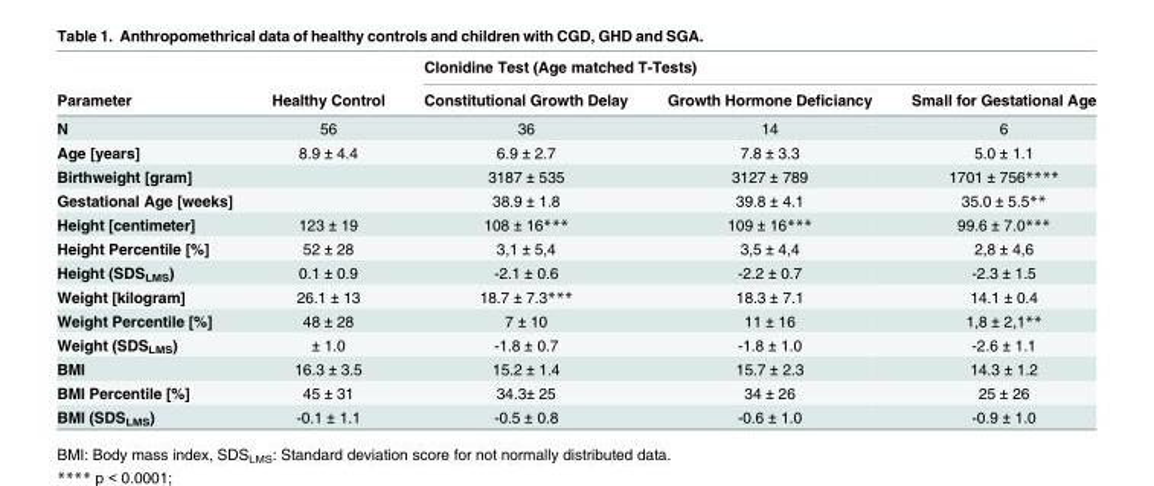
<table><thead><tr><td rowspan="2">Parameter</td><td rowspan="2">Healthy Control</td><td colspan="3">Clonidine Test (Age matched T-Tests)</td></tr><tr><td>Constitutional Growth Delay</td><td>Growth Hormone Deficiancy</td><td>Small for Gestational Age</td></tr></thead><tbody><tr><td>N</td><td>56</td><td>36</td><td>14</td><td>6</td></tr><tr><td>Age [years]</td><td>8.9 ± 4.4</td><td>6.9 ± 2.7</td><td>7.8 ± 3.3</td><td>5.0 ± 1.1</td></tr><tr><td>Birthweight [gram]</td><td></td><td>3187 ± 535</td><td>3127 ± 789</td><td>1701 ± 756****</td></tr><tr><td>Gestational Age [weeks]</td><td></td><td>38.9 ± 1.8</td><td>39.8 ± 4.1</td><td>35.0 ± 5.5**</td></tr><tr><td>Height [centimeter]</td><td>123 ± 19</td><td>108 ± 16***</td><td>109 ± 16***</td><td>99.6 ± 7.0***</td></tr><tr><td>Height Percentile [%]</td><td>52 ± 28</td><td>3,1 ± 5,4</td><td>3,5 ± 4,4</td><td>2,8 ± 4,6</td></tr><tr><td>Height (SDS<sub>LMS</sub>)</td><td>0.1 ± 0.9</td><td>-2.1 ± 0.6</td><td>-2.2 ± 0.7</td><td>-2.3 ± 1.5</td></tr><tr><td>Weight [kilogram]</td><td>26.1 ± 13</td><td>18.7 ± 7.3***</td><td>18.3 ± 7.1</td><td>14.1 ± 0.4</td></tr><tr><td>Weight Percentile [%]</td><td>48 ± 28</td><td>7 ± 10</td><td>11 ± 16</td><td>1,8 ± 2,1**</td></tr><tr><td>Weight (SDS<sub>LMS</sub>)</td><td>± 1.0</td><td>-1.8 ± 0.7</td><td>-1.8 ± 1.0</td><td>-2.6 ± 1.1</td></tr><tr><td>BMI</td><td>16.3 ± 3.5</td><td>15.2 ± 1.4</td><td>15.7 ± 2.3</td><td>14.3 ± 1.2</td></tr><tr><td>BMI Percentile [%]</td><td>45 ± 31</td><td>34.3± 25</td><td>34 ± 26</td><td>25 ± 26</td></tr><tr><td>BMI (SDS<sub>LMS</sub>)</td><td>-0.1 ± 1.1</td><td>-0.5 ± 0.8</td><td>-0.6 ± 1.0</td><td>-0.9 ± 1.0</td></tr></tbody></table>